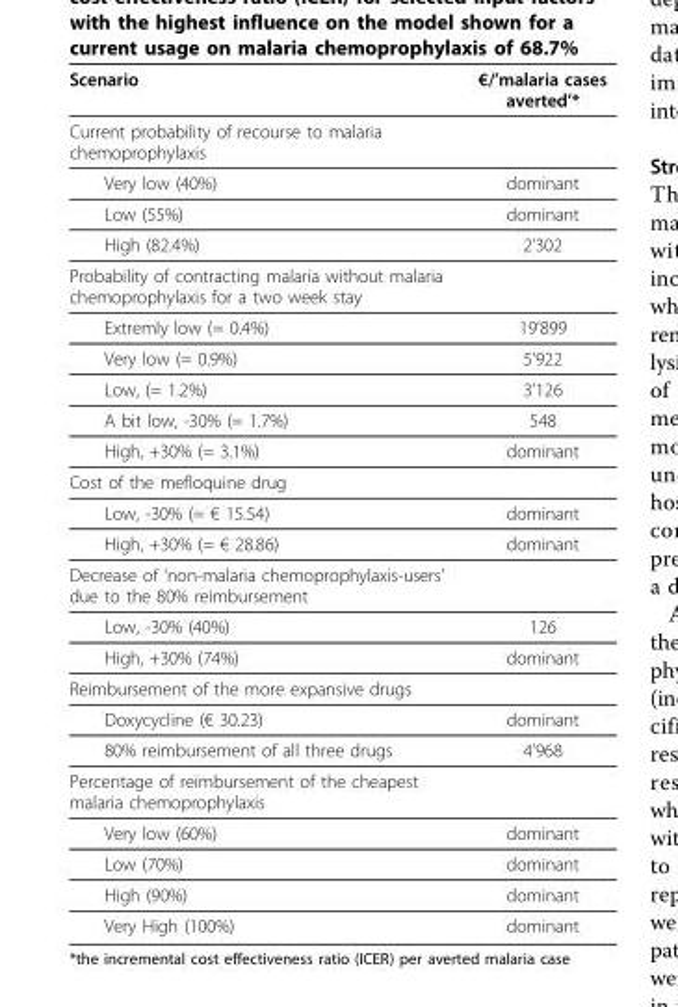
<table><thead><tr><td>Scenario</td><td>€/’malaria cases averted’*</td></tr></thead><tbody><tr><td colspan="2">Current probability of recourse to malaria chemoprophylaxis</td></tr><tr><td>Very low (40%)</td><td>dominant</td></tr><tr><td>Low (55%)</td><td>dominant</td></tr><tr><td>High (82.4%)</td><td>2’302</td></tr><tr><td colspan="2">Probability of contracting malaria without malaria chemoprophylaxis for a two week stay</td></tr><tr><td>Extremly low (= 0.4%)</td><td>19’899</td></tr><tr><td>Very low (= 0.9%)</td><td>5’922</td></tr><tr><td>Low, (= 1.2%)</td><td>3’126</td></tr><tr><td>A bit low, -30% (= 1.7%)</td><td>548</td></tr><tr><td>High, +30% (= 3.1%)</td><td>dominant</td></tr><tr><td colspan="2">Cost of the mefloquine drug</td></tr><tr><td>Low, -30% (= € 15.54)</td><td>dominant</td></tr><tr><td>High, +30% (= € 28.86)</td><td>dominant</td></tr><tr><td colspan="2">Decrease of ‘non-malaria chemoprophylaxis-users’ due to the 80% reimbursement</td></tr><tr><td>Low, -30% (40%)</td><td>126</td></tr><tr><td>High, +30% (74%)</td><td>dominant</td></tr><tr><td colspan="2">Reimbursement of the more expansive drugs</td></tr><tr><td>Doxycycline (€ 30.23)</td><td>dominant</td></tr><tr><td>80% reimbursement of all three drugs</td><td>4’968</td></tr><tr><td colspan="2">Percentage of reimbursement of the cheapest malaria chemoprophylaxis</td></tr><tr><td>Very low (60%)</td><td>dominant</td></tr><tr><td>Low (70%)</td><td>dominant</td></tr><tr><td>High (90%)</td><td>dominant</td></tr><tr><td>Very High (100%)</td><td>dominant</td></tr></tbody></table>